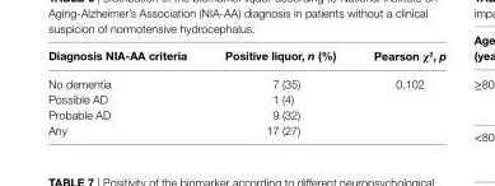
<table><thead><tr><td>Diagnosis nia-aa criteria</td><td>Positive liquor, n (%)</td><td>Pearson χ<sup>2</sup>, p</td></tr></thead><tbody><tr><td>No dementia</td><td>7 (35)</td><td rowspan="4">0.102</td></tr><tr><td>Possible AD</td><td>1 (4)</td></tr><tr><td>Probable AD</td><td>9 (32)</td></tr><tr><td>Any</td><td>17 (27)</td></tr></tbody></table>